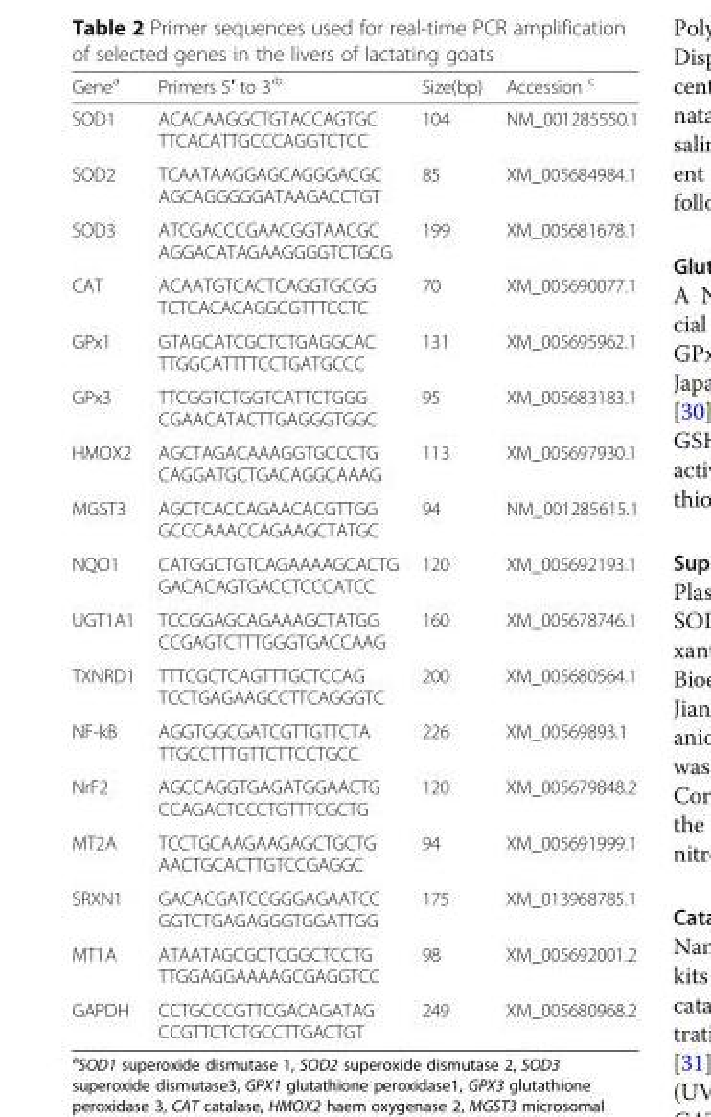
<table><thead><tr><td>Gene<sup>a</sup></td><td>Primers 5′ to 3’<sup>b</sup></td><td>Size(bp)</td><td>Accession <sup>c</sup></td></tr></thead><tbody><tr><td>SOD1</td><td>ACACAAGGCTGTACCAGTGC TTCACATTGCCCAGGTCTCC</td><td>104</td><td>NM_001285550.1</td></tr><tr><td>SOD2</td><td>TCAATAAGGAGCAGGGACGC AGCAGGGGGATAAGACCTGT</td><td>85</td><td>XM_005684984.1</td></tr><tr><td>SOD3</td><td>ATCGACCCGAACGGTAACGC AGGACATAGAAGGGGTCTGCG</td><td>199</td><td>XM_005681678.1</td></tr><tr><td>CAT</td><td>ACAATGTCACTCAGGTGCGG TCTCACACAGGCGTTTCCTC</td><td>70</td><td>XM_005690077.1</td></tr><tr><td>GPx1</td><td>GTAGCATCGCTCTGAGGCAC TTGGCATTTTCCTGATGCCC</td><td>131</td><td>XM_005695962.1</td></tr><tr><td>GPx3</td><td>TTCGGTCTGGTCATTCTGGG CGAACATACTTGAGGGTGGC</td><td>95</td><td>XM_005683183.1</td></tr><tr><td>HMOX2</td><td>AGCTAGACAAAGGTGCCCTG CAGGATGCTGACAGGCAAAG</td><td>113</td><td>XM_005697930.1</td></tr><tr><td>MGST3</td><td>AGCTCACCAGAACACGTTGG GCCCAAACCAGAAGCTATGC</td><td>94</td><td>NM_001285615.1</td></tr><tr><td>NQO1</td><td>CATGGCTGTCAGAAAAGCACTG GACACAGTGACCTCCCATCC</td><td>120</td><td>XM_005692193.1</td></tr><tr><td>UGT1A1</td><td>TCCGGAGCAGAAAGCTATGG CCGAGTCTTTGGGTGACCAAG</td><td>160</td><td>XM_005678746.1</td></tr><tr><td>TXNRD1</td><td>TTTCGCTCAGTTTGCTCCAG TCCTGAGAAGCCTTCAGGGTC</td><td>200</td><td>XM_005680564.1</td></tr><tr><td>NF-kB</td><td>AGGTGGCGATCGTTGTTCTA TTGCCTTTGTTCTTCCTGCC</td><td>226</td><td>XM_00569893.1</td></tr><tr><td>NrF2</td><td>AGCCAGGTGAGATGGAACTG CCAGACTCCCTGTTTCGCTG</td><td>120</td><td>XM_005679848.2</td></tr><tr><td>MT2A</td><td>TCCTGCAAGAAGAGCTGCTG AACTGCACTTGTCCGAGGC</td><td>94</td><td>XM_005691999.1</td></tr><tr><td>SRXN1</td><td>GACACGATCCGGGAGAATCC GGTCTGAGAGGGTGGATTGG</td><td>175</td><td>XM_013968785.1</td></tr><tr><td>MT1A</td><td>ATAATAGCGCTCGGCTCCTG TTGGAGGAAAAGCGAGGTCC</td><td>98</td><td>XM_005692001.2</td></tr><tr><td>GAPDH</td><td>CCTGCCCGTTCGACAGATAG CCGTTCTCTGCCTTGACTGT</td><td>249</td><td>XM_005680968.2</td></tr></tbody></table>